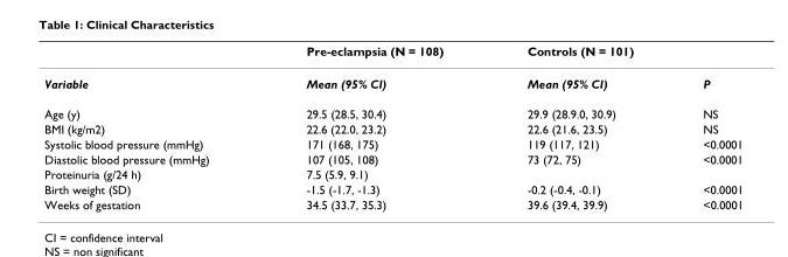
<table><thead><tr><td></td><td>Pre-eclampsia (N = 108)</td><td>Controls (N = 101)</td><td></td></tr></thead><tbody><tr><td>Variable</td><td>Mean (95% CI)</td><td>Mean (95% CI)</td><td>P</td></tr><tr><td>Age (y)</td><td>29.5 (28.5, 30.4)</td><td>29.9 (28.9.0, 30.9)</td><td>NS</td></tr><tr><td>BMI (kg/m2)</td><td>22.6 (22.0, 23.2)</td><td>22.6 (21.6, 23.5)</td><td>NS</td></tr><tr><td>Systolic blood pressure (mmHg)</td><td>171 (168, 175)</td><td>119 (117, 121)</td><td>&lt;0.0001</td></tr><tr><td>Diastolic blood pressure (mmHg)</td><td>107 (105, 108)</td><td>73 (72, 75)</td><td>&lt;0.0001</td></tr><tr><td>Proteinuria (g/24 h)</td><td>7.5 (5.9, 9.1)</td><td></td><td></td></tr><tr><td>Birth weight (SD)</td><td>-1.5 (-1.7, -1.3)</td><td>-0.2 (-0.4, -0.1)</td><td>&lt;0.0001</td></tr><tr><td>Weeks of gestation</td><td>34.5 (33.7, 35.3)</td><td>39.6 (39.4, 39.9)</td><td>&lt;0.0001</td></tr></tbody></table>